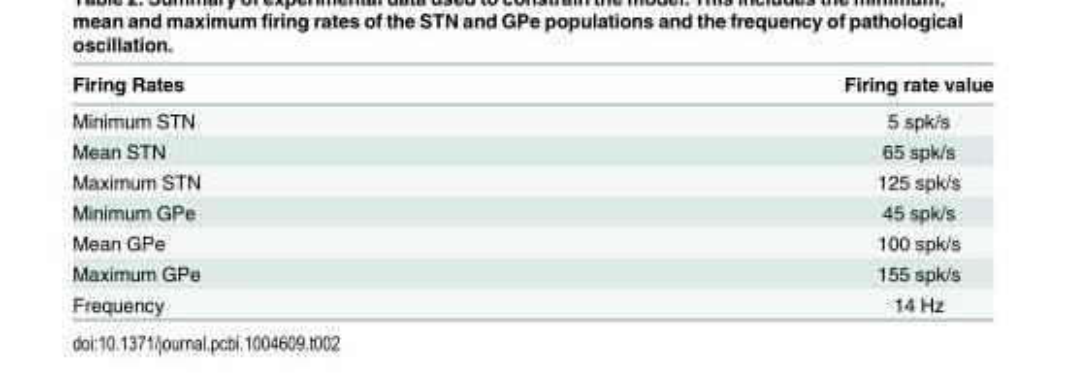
<table><thead><tr><td>Firing Rates</td><td>Firing rate value</td></tr></thead><tbody><tr><td>Minimum STN</td><td>5 spk/s</td></tr><tr><td>Mean STN</td><td>65 spk/s</td></tr><tr><td>Maximum STN</td><td>125 spk/s</td></tr><tr><td>Minimum GPe</td><td>45 spk/s</td></tr><tr><td>Mean GPe</td><td>100 spk/s</td></tr><tr><td>Maximum GPe</td><td>155 spk/s</td></tr><tr><td>Frequency</td><td>14 Hz</td></tr></tbody></table>